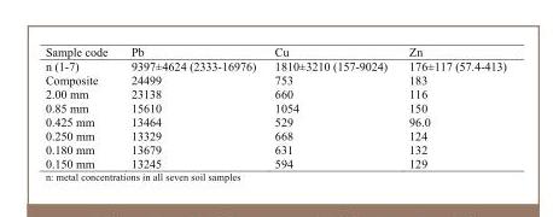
<table><thead><tr><td>Sample code</td><td>Pb</td><td>Cu</td><td>Zn</td></tr></thead><tbody><tr><td>n (1-7)</td><td>9397±4624 (2333-16976)</td><td>1810±3210 (157-9024)</td><td>176±117 (57.4-413)</td></tr><tr><td>Composite</td><td>24499</td><td>753</td><td>183</td></tr><tr><td>2.00 mm</td><td>23138</td><td>660</td><td>116</td></tr><tr><td>0.85 mm</td><td>15610</td><td>1054</td><td>150</td></tr><tr><td>0.425 mm</td><td>13464</td><td>529</td><td>96.0</td></tr><tr><td>0.250 mm</td><td>13329</td><td>668</td><td>124</td></tr><tr><td>0.180 mm</td><td>13679</td><td>631</td><td>132</td></tr><tr><td>0.150 mm</td><td>13245</td><td>594</td><td>129</td></tr></tbody></table>